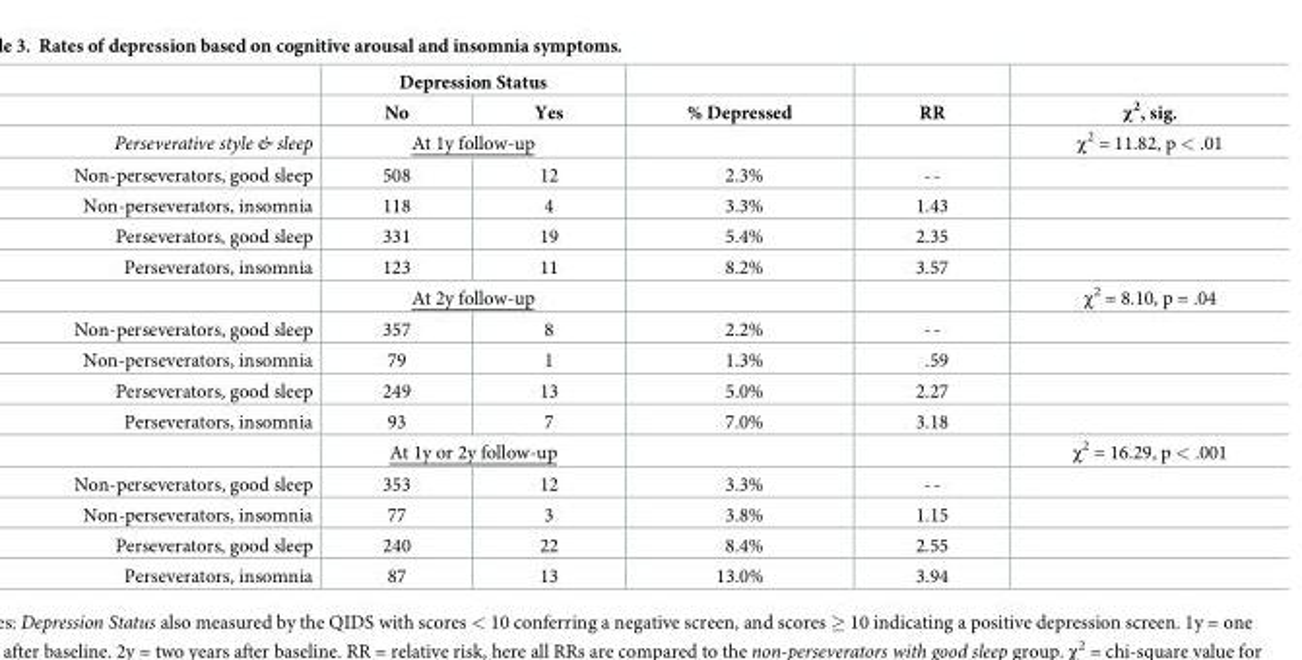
<table><thead><tr><td rowspan="2"></td><td colspan="2">Depression Status</td><td rowspan="2">% Depressed</td><td rowspan="2">RR</td><td rowspan="2">χ<sup>2</sup>, sig.</td></tr><tr><td>No</td><td>Yes</td></tr></thead><tbody><tr><td>Perseverative style &amp; sleep</td><td colspan="2">At 1y follow-up</td><td></td><td></td><td>χ<sup>2</sup> = 11.82, p &lt; .01</td></tr><tr><td>Non-perseverators, good sleep</td><td>508</td><td>12</td><td>2.3%</td><td>--</td><td></td></tr><tr><td>Non-perseverators, insomnia</td><td>118</td><td>4</td><td>3.3%</td><td>1.43</td><td></td></tr><tr><td>Perseverators, good sleep</td><td>331</td><td>19</td><td>5.4%</td><td>2.35</td><td></td></tr><tr><td rowspan="2">Perseverators, insomnia</td><td>123</td><td>11</td><td>8.2%</td><td>3.57</td><td></td></tr><tr><td colspan="2">At 2y follow-up</td><td></td><td></td><td>χ<sup>2</sup> = 8.10, p = .04</td></tr><tr><td>Non-perseverators, good sleep</td><td>357</td><td>8</td><td>2.2%</td><td>--</td><td></td></tr><tr><td>Non-perseverators, insomnia</td><td>79</td><td>1</td><td>1.3%</td><td>.59</td><td></td></tr><tr><td>Perseverators, good sleep</td><td>249</td><td>13</td><td>5.0%</td><td>2.27</td><td></td></tr><tr><td rowspan="2">Perseverators, insomnia</td><td>93</td><td>7</td><td>7.0%</td><td>3.18</td><td></td></tr><tr><td colspan="2">At 1y or 2y follow-up</td><td></td><td></td><td>χ<sup>2</sup> = 16.29, p &lt; .001</td></tr><tr><td>Non-perseverators, good sleep</td><td>353</td><td>12</td><td>3.3%</td><td>--</td><td></td></tr><tr><td>Non-perseverators, insomnia</td><td>77</td><td>3</td><td>3.8%</td><td>1.15</td><td></td></tr><tr><td>Perseverators, good sleep</td><td>240</td><td>22</td><td>8.4%</td><td>2.55</td><td></td></tr><tr><td>Perseverators, insomnia</td><td>87</td><td>13</td><td>13.0%</td><td>3.94</td><td></td></tr></tbody></table>